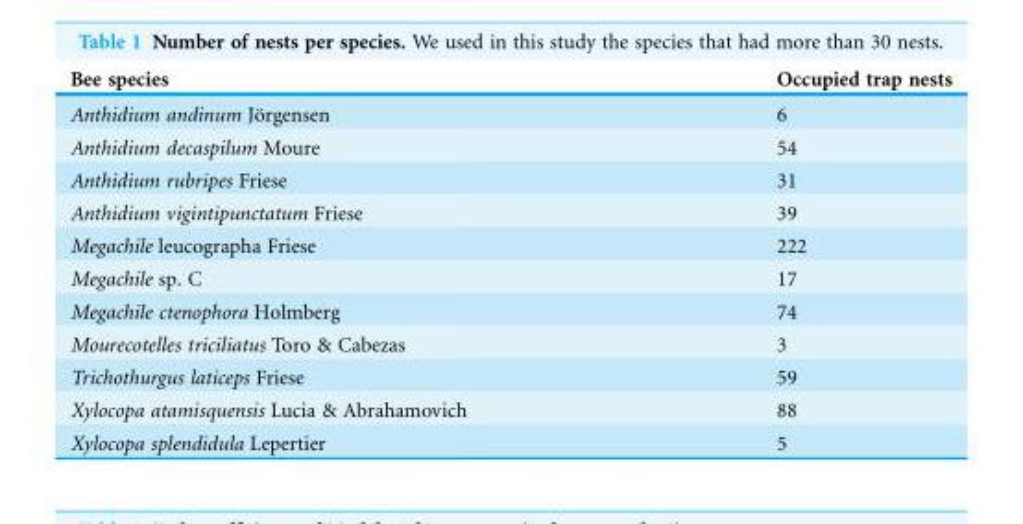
<table><thead><tr><td>Bee species</td><td>Occupied trap nests</td></tr></thead><tbody><tr><td>Anthidium andinum Jo¨rgensen</td><td>6</td></tr><tr><td>Anthidium decaspilum Moure</td><td>54</td></tr><tr><td>Anthidium rubripes Friese</td><td>31</td></tr><tr><td>Anthidium vigintipunctatum Friese</td><td>39</td></tr><tr><td>Megachile leucographa Friese</td><td>222</td></tr><tr><td>Megachile sp. C</td><td>17</td></tr><tr><td>Megachile ctenophora Holmberg</td><td>74</td></tr><tr><td>Mourecotelles triciliatus Toro &amp; Cabezas</td><td>3</td></tr><tr><td>Trichothurgus laticeps Friese</td><td>59</td></tr><tr><td>Xylocopa atamisquensis Lucia &amp; Abrahamovich</td><td>88</td></tr><tr><td>Xylocopa splendidula Lepertier</td><td>5</td></tr></tbody></table>